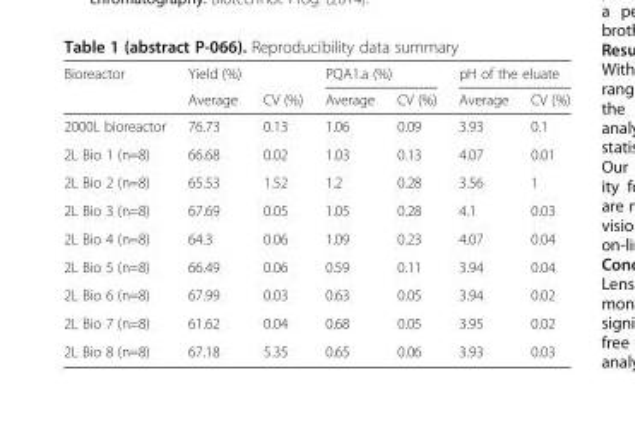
<table><thead><tr><td rowspan="2">Bioreactor</td><td rowspan="2">Yield (%) Average</td><td rowspan="2">CV (%)</td><td colspan="2">PQA1.a (%)</td><td colspan="2">pH of the eluate</td></tr><tr><td>Average</td><td>CV (%)</td><td>Average</td><td>CV (%)</td></tr></thead><tbody><tr><td>2000L bioreactor</td><td>76.73</td><td>0.13</td><td>1.06</td><td>0.09</td><td>3.93</td><td>0.1</td></tr><tr><td>2L Bio 1 (n=8)</td><td>66.68</td><td>0.02</td><td>1.03</td><td>0.13</td><td>4.07</td><td>0.01</td></tr><tr><td>2L Bio 2 (n=8)</td><td>65.53</td><td>1.52</td><td>1.2</td><td>0.28</td><td>3.56</td><td>1</td></tr><tr><td>2L Bio 3 (n=8)</td><td>67.69</td><td>0.05</td><td>1.05</td><td>0.28</td><td>4.1</td><td>0.03</td></tr><tr><td>2L Bio 4 (n=8)</td><td>64.3</td><td>0.06</td><td>1.09</td><td>0.23</td><td>4.07</td><td>0.04</td></tr><tr><td>2L Bio 5 (n=8)</td><td>66.49</td><td>0.06</td><td>0.59</td><td>0.11</td><td>3.94</td><td>0.04</td></tr><tr><td>2L Bio 6 (n=8)</td><td>67.99</td><td>0.03</td><td>0.63</td><td>0.05</td><td>3.94</td><td>0.02</td></tr><tr><td>2L Bio 7 (n=8)</td><td>61.62</td><td>0.04</td><td>0.68</td><td>0.05</td><td>3.95</td><td>0.02</td></tr><tr><td>2L Bio 8 (n=8)</td><td>67.18</td><td>5.35</td><td>0.65</td><td>0.06</td><td>3.93</td><td>0.03</td></tr></tbody></table>